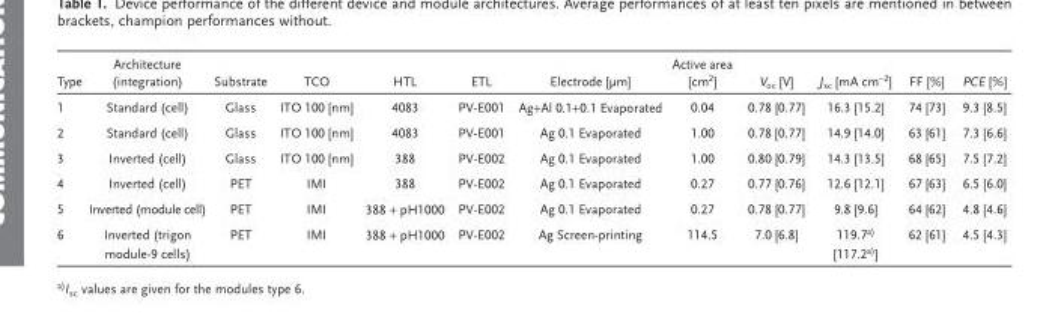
<table><thead><tr><td>Type</td><td>Architecture (integration)</td><td>Substrate</td><td>TCO</td><td>HTL</td><td>ETL</td><td>Electrode [µm]</td><td>Active area [cm <sup>2</sup> ]</td><td>V <sub>oc</sub> [V]</td><td>J <sub>sc</sub> [mA cm <sup>−2</sup> ]</td><td>FF [%]</td><td>PCE [%]</td></tr></thead><tbody><tr><td>1</td><td>Standard (cell)</td><td>Glass</td><td>ITO 100 [nm]</td><td>4083</td><td>PV-E001</td><td>Ag+Al 0.1+0.1 Evaporated</td><td>0.04</td><td>0.78 [0.77]</td><td>16.3 [15.2]</td><td>74 [73]</td><td>9.3 [8.5]</td></tr><tr><td>2</td><td>Standard (cell)</td><td>Glass</td><td>ITO 100 [nm]</td><td>4083</td><td>PV-E001</td><td>Ag 0.1 Evaporated</td><td>1.00</td><td>0.78 [0.77]</td><td>14.9 [14.0]</td><td>63 [61]</td><td>7.3 [6.6]</td></tr><tr><td>3</td><td>Inverted (cell)</td><td>Glass</td><td>ITO 100 [nm]</td><td>388</td><td>PV-E002</td><td>Ag 0.1 Evaporated</td><td>1.00</td><td>0.80 [0.79]</td><td>14.3 [13.5]</td><td>68 [65]</td><td>7.5 [7.2]</td></tr><tr><td>4</td><td>Inverted (cell)</td><td>PET</td><td>IMI</td><td>388</td><td>PV-E002</td><td>Ag 0.1 Evaporated</td><td>0.27</td><td>0.77 [0.76]</td><td>12.6 [12.1]</td><td>67 [63]</td><td>6.5 [6.0]</td></tr><tr><td>5</td><td>Inverted (module cell)</td><td>PET</td><td>IMI</td><td>388 + pH1000</td><td>PV-E002</td><td>Ag 0.1 Evaporated</td><td>0.27</td><td>0.78 [0.77]</td><td>9.8 [9.6]</td><td>64 [62]</td><td>4.8 [4.6]</td></tr><tr><td>6</td><td>Inverted (trigon module-9 cells)</td><td>PET</td><td>IMI</td><td>388 + pH1000</td><td>PV-E002</td><td>Ag Screen-printing</td><td>114.5</td><td>7.0 [6.8]</td><td>119.7 a) [117.2 a) ]</td><td>62 [61]</td><td>4.5 [4.3]</td></tr></tbody></table>